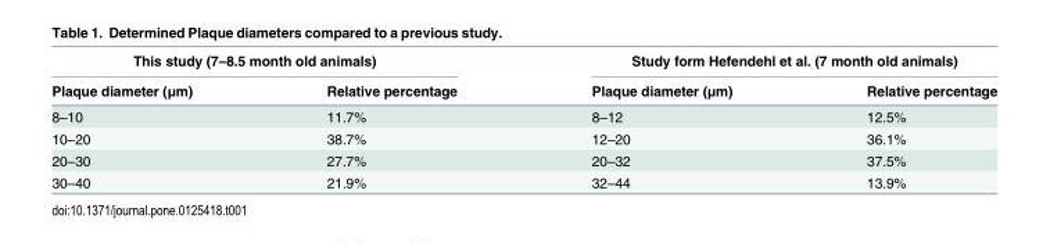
<table><thead><tr><td colspan="2">This study (7–8.5 month old animals)</td><td colspan="2">Study form Hefendehl et al. (7 month old animals)</td></tr><tr><td>Plaque diameter (μm)</td><td>Relative percentage</td><td>Plaque diameter (μm)</td><td>Relative percentage</td></tr></thead><tbody><tr><td>8–10</td><td>11.7%</td><td>8–12</td><td>12.5%</td></tr><tr><td>10–20</td><td>38.7%</td><td>12–20</td><td>36.1%</td></tr><tr><td>20–30</td><td>27.7%</td><td>20–32</td><td>37.5%</td></tr><tr><td>30–40</td><td>21.9%</td><td>32–44</td><td>13.9%</td></tr></tbody></table>